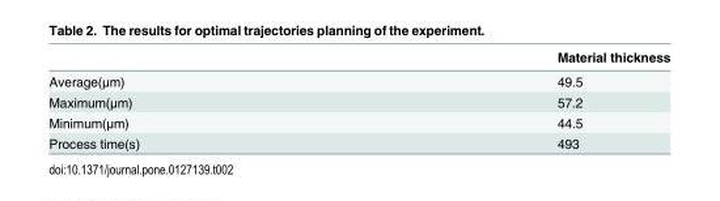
<table><thead><tr><td></td><td>Material thickness</td></tr></thead><tbody><tr><td>Average(μm)</td><td>49.5</td></tr><tr><td>Maximum(μm)</td><td>57.2</td></tr><tr><td>Minimum(μm)</td><td>44.5</td></tr><tr><td>Process time(s)</td><td>493</td></tr></tbody></table>